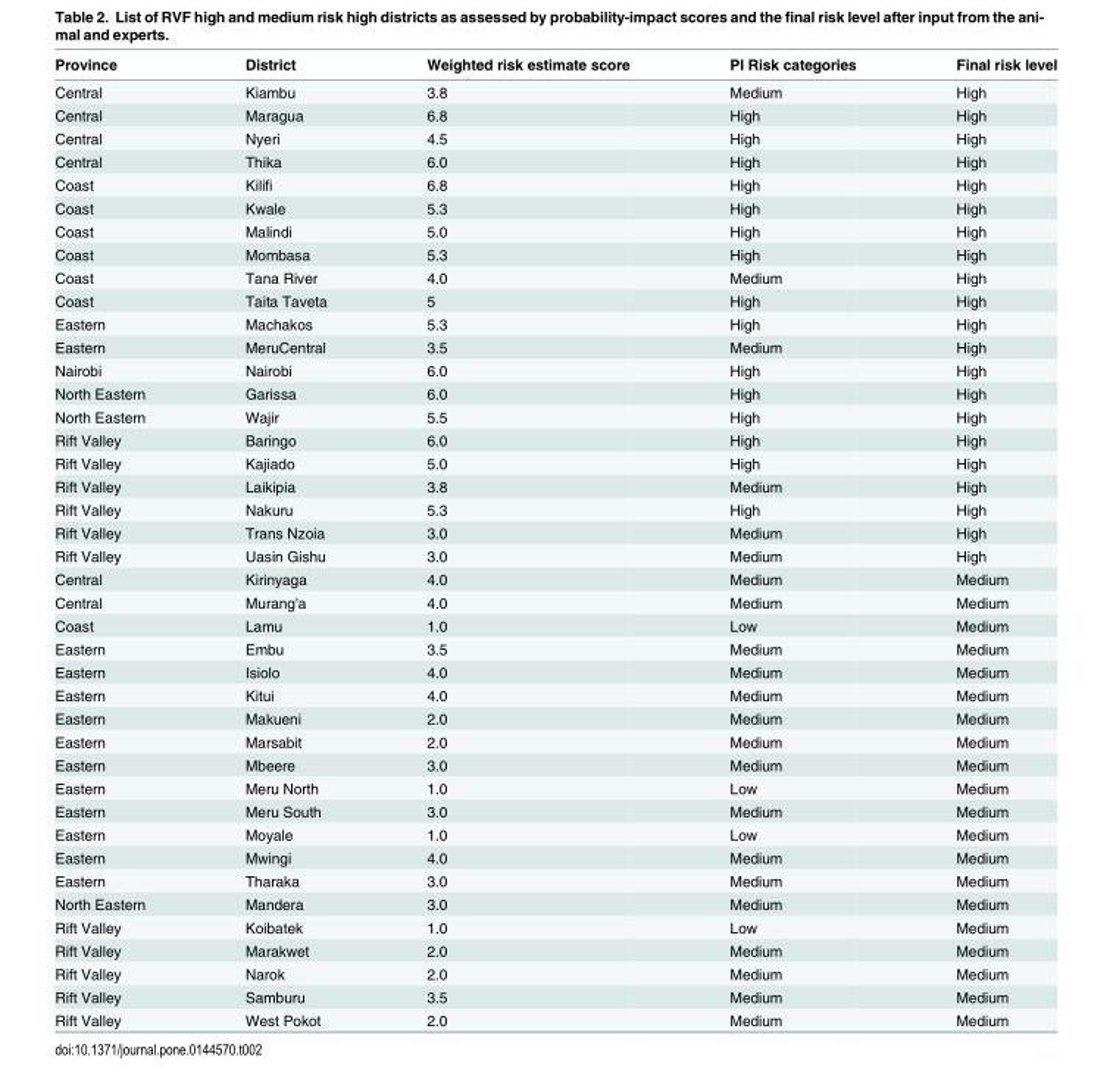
<table><thead><tr><td>Province</td><td>District</td><td>Weighted risk estimate score</td><td>PI Risk categories</td><td>Final risk level</td></tr></thead><tbody><tr><td>Central</td><td>Kiambu</td><td>3.8</td><td>Medium</td><td>High</td></tr><tr><td>Central</td><td>Maragua</td><td>6.8</td><td>High</td><td>High</td></tr><tr><td>Central</td><td>Nyeri</td><td>4.5</td><td>High</td><td>High</td></tr><tr><td>Central</td><td>Thika</td><td>6.0</td><td>High</td><td>High</td></tr><tr><td>Coast</td><td>Kilifi</td><td>6.8</td><td>High</td><td>High</td></tr><tr><td>Coast</td><td>Kwale</td><td>5.3</td><td>High</td><td>High</td></tr><tr><td>Coast</td><td>Malindi</td><td>5.0</td><td>High</td><td>High</td></tr><tr><td>Coast</td><td>Mombasa</td><td>5.3</td><td>High</td><td>High</td></tr><tr><td>Coast</td><td>Tana River</td><td>4.0</td><td>Medium</td><td>High</td></tr><tr><td>Coast</td><td>Taita Taveta</td><td>5</td><td>High</td><td>High</td></tr><tr><td>Eastern</td><td>Machakos</td><td>5.3</td><td>High</td><td>High</td></tr><tr><td>Eastern</td><td>MeruCentral</td><td>3.5</td><td>Medium</td><td>High</td></tr><tr><td>Nairobi</td><td>Nairobi</td><td>6.0</td><td>High</td><td>High</td></tr><tr><td>North Eastern</td><td>Garissa</td><td>6.0</td><td>High</td><td>High</td></tr><tr><td>North Eastern</td><td>Wajir</td><td>5.5</td><td>High</td><td>High</td></tr><tr><td>Rift Valley</td><td>Baringo</td><td>6.0</td><td>High</td><td>High</td></tr><tr><td>Rift Valley</td><td>Kajiado</td><td>5.0</td><td>High</td><td>High</td></tr><tr><td>Rift Valley</td><td>Laikipia</td><td>3.8</td><td>Medium</td><td>High</td></tr><tr><td>Rift Valley</td><td>Nakuru</td><td>5.3</td><td>High</td><td>High</td></tr><tr><td>Rift Valley</td><td>Trans Nzoia</td><td>3.0</td><td>Medium</td><td>High</td></tr><tr><td>Rift Valley</td><td>Uasin Gishu</td><td>3.0</td><td>Medium</td><td>High</td></tr><tr><td>Central</td><td>Kirinyaga</td><td>4.0</td><td>Medium</td><td>Medium</td></tr><tr><td>Central</td><td>Murang&#x27;a</td><td>4.0</td><td>Medium</td><td>Medium</td></tr><tr><td>Coast</td><td>Lamu</td><td>1.0</td><td>Low</td><td>Medium</td></tr><tr><td>Eastern</td><td>Embu</td><td>3.5</td><td>Medium</td><td>Medium</td></tr><tr><td>Eastern</td><td>Isiolo</td><td>4.0</td><td>Medium</td><td>Medium</td></tr><tr><td>Eastern</td><td>Kitui</td><td>4.0</td><td>Medium</td><td>Medium</td></tr><tr><td>Eastern</td><td>Makueni</td><td>2.0</td><td>Medium</td><td>Medium</td></tr><tr><td>Eastern</td><td>Marsabit</td><td>2.0</td><td>Medium</td><td>Medium</td></tr><tr><td>Eastern</td><td>Mbeere</td><td>3.0</td><td>Medium</td><td>Medium</td></tr><tr><td>Eastern</td><td>Meru North</td><td>1.0</td><td>Low</td><td>Medium</td></tr><tr><td>Eastern</td><td>Meru South</td><td>3.0</td><td>Medium</td><td>Medium</td></tr><tr><td>Eastern</td><td>Moyale</td><td>1.0</td><td>Low</td><td>Medium</td></tr><tr><td>Eastern</td><td>Mwingi</td><td>4.0</td><td>Medium</td><td>Medium</td></tr><tr><td>Eastern</td><td>Tharaka</td><td>3.0</td><td>Medium</td><td>Medium</td></tr><tr><td>North Eastern</td><td>Mandera</td><td>3.0</td><td>Medium</td><td>Medium</td></tr><tr><td>Rift Valley</td><td>Koibatek</td><td>1.0</td><td>Low</td><td>Medium</td></tr><tr><td>Rift Valley</td><td>Marakwet</td><td>2.0</td><td>Medium</td><td>Medium</td></tr><tr><td>Rift Valley</td><td>Narok</td><td>2.0</td><td>Medium</td><td>Medium</td></tr><tr><td>Rift Valley</td><td>Samburu</td><td>3.5</td><td>Medium</td><td>Medium</td></tr><tr><td>Rift Valley</td><td>West Pokot</td><td>2.0</td><td>Medium</td><td>Medium</td></tr></tbody></table>